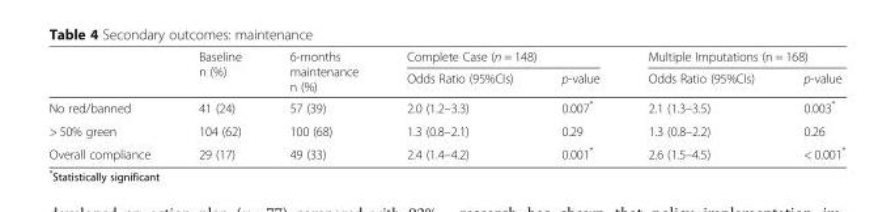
<table><thead><tr><td rowspan="2"></td><td rowspan="2">Baseline n (%)</td><td rowspan="2">6-months maintenance n (%)</td><td colspan="2">Complete Case (n = 148)</td><td colspan="2">Multiple Imputations (n = 168)</td></tr><tr><td>Odds Ratio (95%CIs)</td><td>p-value</td><td>Odds Ratio (95%CIs)</td><td>p-value</td></tr></thead><tbody><tr><td>No red/banned</td><td>41 (24)</td><td>57 (39)</td><td>2.0 (1.2–3.3)</td><td>0.007*</td><td>2.1 (1.3–3.5)</td><td>0.003*</td></tr><tr><td>&gt; 50% green</td><td>104 (62)</td><td>100 (68)</td><td>1.3 (0.8–2.1)</td><td>0.29</td><td>1.3 (0.8–2.2)</td><td>0.26</td></tr><tr><td>Overall compliance</td><td>29 (17)</td><td>49 (33)</td><td>2.4 (1.4–4.2)</td><td>0.001*</td><td>2.6 (1.5–4.5)</td><td>&lt; 0.001*</td></tr></tbody></table>